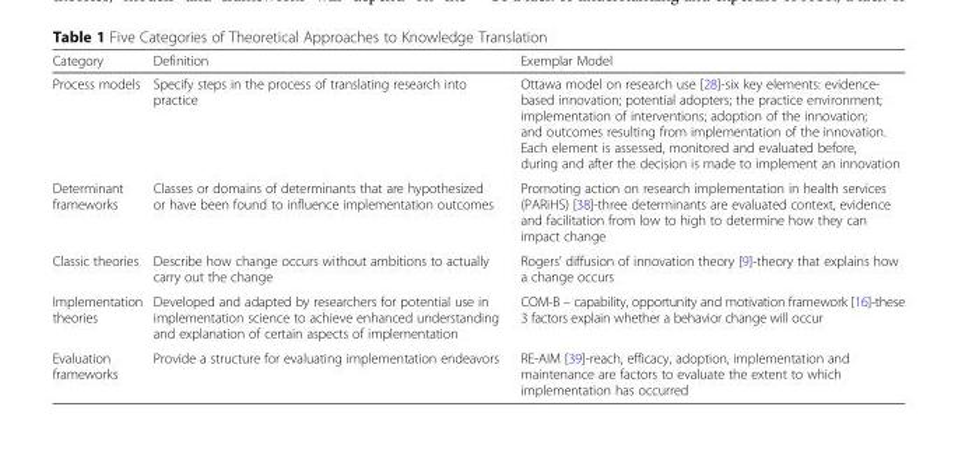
<table><thead><tr><td>Category</td><td>Definition</td><td>Exemplar Model</td></tr></thead><tbody><tr><td>Process models</td><td>Specify steps in the process of translating research into practice</td><td>Ottawa model on research use [28]-six key elements: evidence- based innovation; potential adopters; the practice environment; implementation of interventions; adoption of the innovation; and outcomes resulting from implementation of the innovation. Each element is assessed, monitored and evaluated before, during and after the decision is made to implement an innovation</td></tr><tr><td>Determinant frameworks</td><td>Classes or domains of determinants that are hypothesized or have been found to influence implementation outcomes</td><td>Promoting action on research implementation in health services (PARiHS) [38]-three determinants are evaluated context, evidence and facilitation from low to high to determine how they can impact change</td></tr><tr><td>Classic theories</td><td>Describe how change occurs without ambitions to actually carry out the change</td><td>Rogers’ diffusion of innovation theory [9]-theory that explains how a change occurs</td></tr><tr><td>Implementation theories</td><td>Developed and adapted by researchers for potential use in implementation science to achieve enhanced understanding and explanation of certain aspects of implementation</td><td>COM-B – capability, opportunity and motivation framework [16]-these 3 factors explain whether a behavior change will occur</td></tr><tr><td>Evaluation frameworks</td><td>Provide a structure for evaluating implementation endeavors</td><td>RE-AIM [39]-reach, efficacy, adoption, implementation and maintenance are factors to evaluate the extent to which implementation has occurred</td></tr></tbody></table>